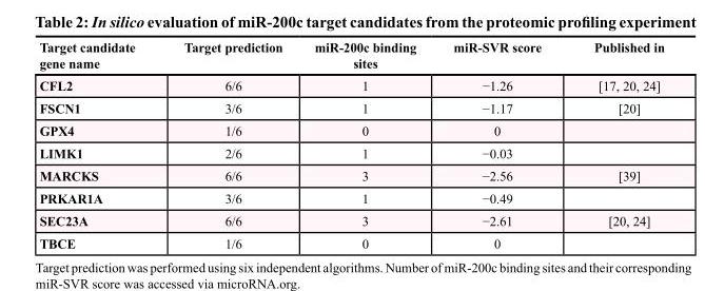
<table><thead><tr><td>Target candidate gene name</td><td>Target prediction</td><td>miR-200c binding sites</td><td>miR-SVR score</td><td>Published in</td></tr></thead><tbody><tr><td>CFL2</td><td>6/6</td><td>1</td><td>−1.26</td><td>[17, 20, 24]</td></tr><tr><td>FSCN1</td><td>3/6</td><td>1</td><td>−1.17</td><td>[20]</td></tr><tr><td>GPX4</td><td>1/6</td><td>0</td><td>0</td><td></td></tr><tr><td>LIMK1</td><td>2/6</td><td>1</td><td>−0.03</td><td></td></tr><tr><td>MARCKS</td><td>6/6</td><td>3</td><td>−2.56</td><td>[39]</td></tr><tr><td>PRKAR1A</td><td>3/6</td><td>1</td><td>−0.49</td><td></td></tr><tr><td>SEC23A</td><td>6/6</td><td>3</td><td>−2.61</td><td>[20, 24]</td></tr><tr><td>TBCE</td><td>1/6</td><td>0</td><td>0</td><td></td></tr></tbody></table>